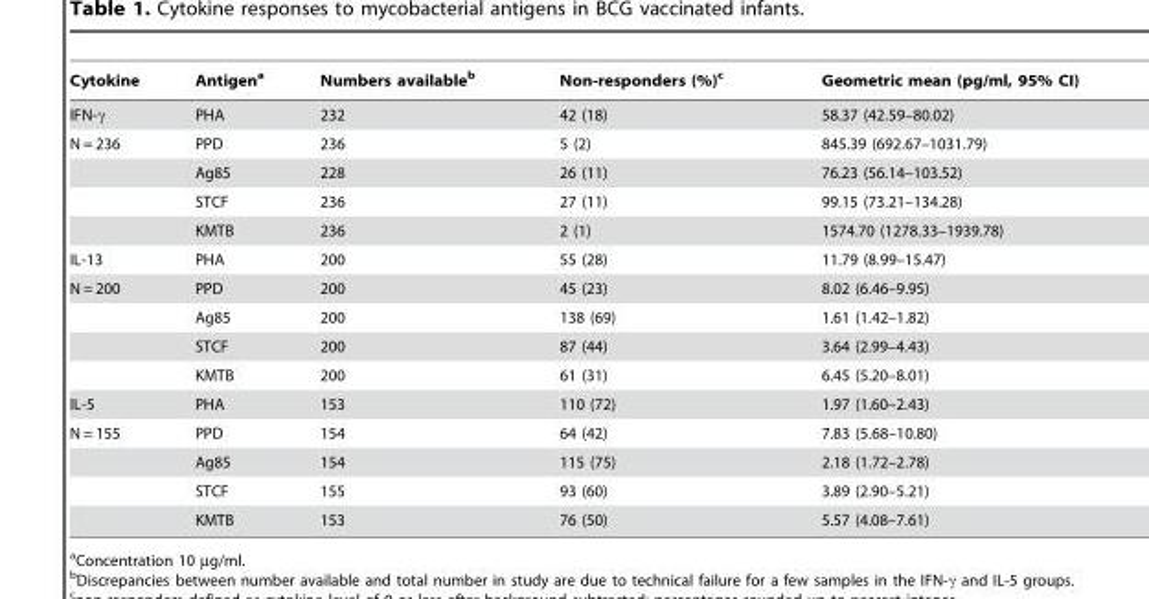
<table><thead><tr><td>Cytokine</td><td>Antigen<sup>a</sup></td><td>Numbers available<sup>b</sup></td><td>Non-responders (%)<sup>c</sup></td><td>Geometric mean (pg/ml, 95% CI)</td></tr></thead><tbody><tr><td>IFN-γ</td><td>PHA</td><td>232</td><td>42 (18)</td><td>58.37 (42.59–80.02)</td></tr><tr><td rowspan="4">N = 236</td><td>PPD</td><td>236</td><td>5 (2)</td><td>845.39 (692.67–1031.79)</td></tr><tr><td>Ag85</td><td>228</td><td>26 (11)</td><td>76.23 (56.14–103.52)</td></tr><tr><td>STCF</td><td>236</td><td>27 (11)</td><td>99.15 (73.21–134.28)</td></tr><tr><td>KMTB</td><td>236</td><td>2 (1)</td><td>1574.70 (1278.33–1939.78)</td></tr><tr><td>IL-13</td><td>PHA</td><td>200</td><td>55 (28)</td><td>11.79 (8.99–15.47)</td></tr><tr><td rowspan="4">N = 200</td><td>PPD</td><td>200</td><td>45 (23)</td><td>8.02 (6.46–9.95)</td></tr><tr><td>Ag85</td><td>200</td><td>138 (69)</td><td>1.61 (1.42–1.82)</td></tr><tr><td>STCF</td><td>200</td><td>87 (44)</td><td>3.64 (2.99–4.43)</td></tr><tr><td>KMTB</td><td>200</td><td>61 (31)</td><td>6.45 (5.20–8.01)</td></tr><tr><td>IL-5</td><td>PHA</td><td>153</td><td>110 (72)</td><td>1.97 (1.60–2.43)</td></tr><tr><td rowspan="4">N = 155</td><td>PPD</td><td>154</td><td>64 (42)</td><td>7.83 (5.68–10.80)</td></tr><tr><td>Ag85</td><td>154</td><td>115 (75)</td><td>2.18 (1.72–2.78)</td></tr><tr><td>STCF</td><td>155</td><td>93 (60)</td><td>3.89 (2.90–5.21)</td></tr><tr><td>KMTB</td><td>153</td><td>76 (50)</td><td>5.57 (4.08–7.61)</td></tr></tbody></table>